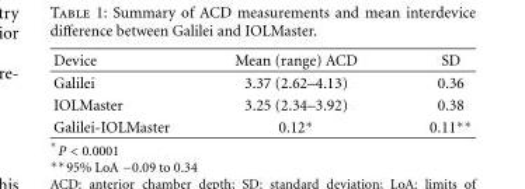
<table><thead><tr><td>Device</td><td>Mean (range) ACD</td><td>SD</td></tr></thead><tbody><tr><td>Galilei</td><td>3.37 (2.62–4.13)</td><td>0.36</td></tr><tr><td>IOLMaster</td><td>3.25 (2.34–3.92)</td><td>0.38</td></tr><tr><td>Galilei-IOLMaster</td><td>0.12∗</td><td>0.11∗∗</td></tr></tbody></table>